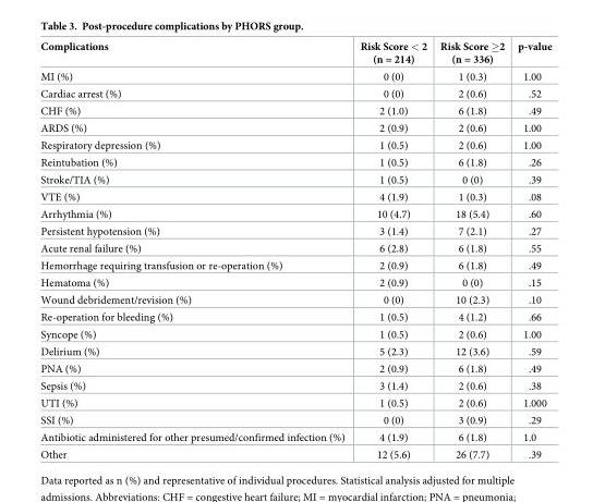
<table><thead><tr><td>Complications</td><td>Risk Score &lt; 2 (n = 214)</td><td>Risk Score ≥2 (n = 336)</td><td>p-value</td></tr></thead><tbody><tr><td>MI (%)</td><td>0 (0)</td><td>1 (0.3)</td><td>1.00</td></tr><tr><td>Cardiac arrest (%)</td><td>0 (0)</td><td>2 (0.6)</td><td>.52</td></tr><tr><td>CHF (%)</td><td>2 (1.0)</td><td>6 (1.8)</td><td>.49</td></tr><tr><td>ARDS (%)</td><td>2 (0.9)</td><td>2 (0.6)</td><td>1.00</td></tr><tr><td>Respiratory depression (%)</td><td>1 (0.5)</td><td>2 (0.6)</td><td>1.00</td></tr><tr><td>Reintubation (%)</td><td>1 (0.5)</td><td>6 (1.8)</td><td>.26</td></tr><tr><td>Stroke/TIA (%)</td><td>1 (0.5)</td><td>0 (0)</td><td>.39</td></tr><tr><td>VTE (%)</td><td>4 (1.9)</td><td>1 (0.3)</td><td>.08</td></tr><tr><td>Arrhythmia (%)</td><td>10 (4.7)</td><td>18 (5.4)</td><td>.60</td></tr><tr><td>Persistent hypotension (%)</td><td>3 (1.4)</td><td>7 (2.1)</td><td>.27</td></tr><tr><td>Acute renal failure (%)</td><td>6 (2.8)</td><td>6 (1.8)</td><td>.55</td></tr><tr><td>Hemorrhage requiring transfusion or re-operation (%)</td><td>2 (0.9)</td><td>6 (1.8)</td><td>.49</td></tr><tr><td>Hematoma (%)</td><td>2 (0.9)</td><td>0 (0)</td><td>.15</td></tr><tr><td>Wound debridement/revision (%)</td><td>0 (0)</td><td>10 (2.3)</td><td>.10</td></tr><tr><td>Re-operation for bleeding (%)</td><td>1 (0.5)</td><td>4 (1.2)</td><td>.66</td></tr><tr><td>Syncope (%)</td><td>1 (0.5)</td><td>2 (0.6)</td><td>1.00</td></tr><tr><td>Delirium (%)</td><td>5 (2.3)</td><td>12 (3.6)</td><td>.59</td></tr><tr><td>PNA (%)</td><td>2 (0.9)</td><td>6 (1.8)</td><td>.49</td></tr><tr><td>Sepsis (%)</td><td>3 (1.4)</td><td>2 (0.6)</td><td>.38</td></tr><tr><td>UTI (%)</td><td>1 (0.5)</td><td>2 (0.6)</td><td>1.000</td></tr><tr><td>SSI (%)</td><td>0 (0)</td><td>3 (0.9)</td><td>.29</td></tr><tr><td>Antibiotic administered for other presumed/confirmed infection (%)</td><td>4 (1.9)</td><td>6 (1.8)</td><td>1.0</td></tr><tr><td>Other</td><td>12 (5.6)</td><td>26 (7.7)</td><td>.39</td></tr></tbody></table>